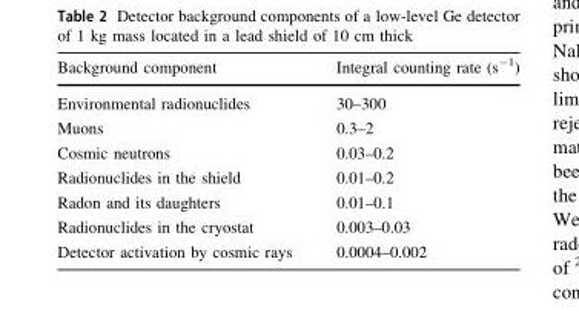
<table><thead><tr><td>Background component</td><td>Integral counting rate (s<sup>-1</sup>)</td></tr></thead><tbody><tr><td>Environmental radionuclides</td><td>30–300</td></tr><tr><td>Muons</td><td>0.3–2</td></tr><tr><td>Cosmic neutrons</td><td>0.03–0.2</td></tr><tr><td>Radionuclides in the shield</td><td>0.01–0.2</td></tr><tr><td>Radon and its daughters</td><td>0.01–0.1</td></tr><tr><td>Radionuclides in the cryostat</td><td>0.003–0.03</td></tr><tr><td>Detector activation by cosmic rays</td><td>0.0004–0.002</td></tr></tbody></table>